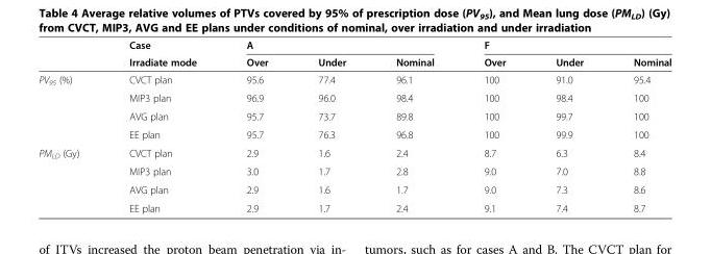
<table><thead><tr><td rowspan="2"></td><td rowspan="2">Case Irradiate mode</td><td colspan="3">A</td><td colspan="3">F</td></tr><tr><td>Over</td><td>Under</td><td>Nominal</td><td>Over</td><td>Under</td><td>Nominal</td></tr></thead><tbody><tr><td rowspan="4">PV<sub>95</sub> (%)</td><td>CVCT plan</td><td>95.6</td><td>77.4</td><td>96.1</td><td>100</td><td>91.0</td><td>95.4</td></tr><tr><td>MIP3 plan</td><td>96.9</td><td>96.0</td><td>98.4</td><td>100</td><td>98.4</td><td>100</td></tr><tr><td>AVG plan</td><td>95.7</td><td>73.7</td><td>89.8</td><td>100</td><td>99.7</td><td>100</td></tr><tr><td>EE plan</td><td>95.7</td><td>76.3</td><td>96.8</td><td>100</td><td>99.9</td><td>100</td></tr><tr><td rowspan="4">PM<sub>LD</sub> (Gy)</td><td>CVCT plan</td><td>2.9</td><td>1.6</td><td>2.4</td><td>8.7</td><td>6.3</td><td>8.4</td></tr><tr><td>MIP3 plan</td><td>3.0</td><td>1.7</td><td>2.8</td><td>9.0</td><td>7.0</td><td>8.8</td></tr><tr><td>AVG plan</td><td>2.9</td><td>1.6</td><td>1.7</td><td>9.0</td><td>7.3</td><td>8.6</td></tr><tr><td>EE plan</td><td>2.9</td><td>1.7</td><td>2.4</td><td>9.1</td><td>7.4</td><td>8.7</td></tr></tbody></table>